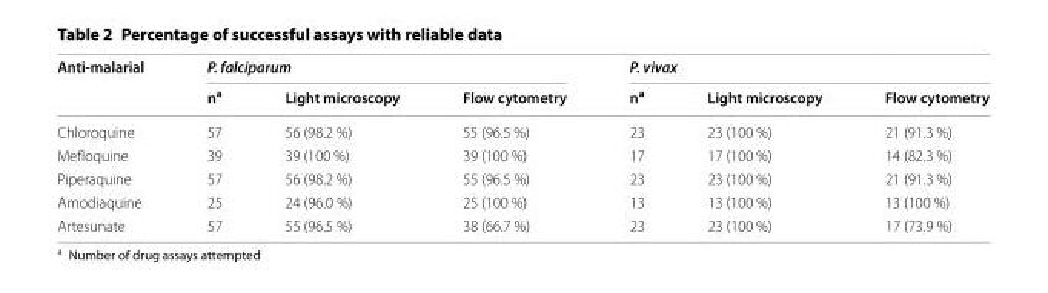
<table><thead><tr><td rowspan="2">Anti‑malarial</td><td colspan="3">P. falciparum</td><td colspan="3">P. vivax</td></tr><tr><td>n<sup>a</sup></td><td>Light microscopy</td><td>Flow cytometry</td><td>n<sup>a</sup></td><td>Light microscopy</td><td>Flow cytometry</td></tr></thead><tbody><tr><td>Chloroquine</td><td>57</td><td>56 (98.2 %)</td><td>55 (96.5 %)</td><td>23</td><td>23 (100 %)</td><td>21 (91.3 %)</td></tr><tr><td>Mefloquine</td><td>39</td><td>39 (100 %)</td><td>39 (100 %)</td><td>17</td><td>17 (100 %)</td><td>14 (82.3 %)</td></tr><tr><td>Piperaquine</td><td>57</td><td>56 (98.2 %)</td><td>55 (96.5 %)</td><td>23</td><td>23 (100 %)</td><td>21 (91.3 %)</td></tr><tr><td>Amodiaquine</td><td>25</td><td>24 (96.0 %)</td><td>25 (100 %)</td><td>13</td><td>13 (100 %)</td><td>13 (100 %)</td></tr><tr><td>Artesunate</td><td>57</td><td>55 (96.5 %)</td><td>38 (66.7 %)</td><td>23</td><td>23 (100 %)</td><td>17 (73.9 %)</td></tr></tbody></table>